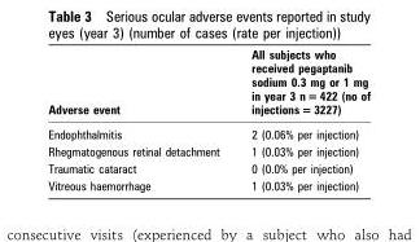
<table><thead><tr><td>Adverse event</td><td>All subjects who received pegaptanib sodium 0.3 mg or 1 mg in year 3 n = 422 (no of injections = 3227)</td></tr></thead><tbody><tr><td>Endophthalmitis</td><td>2 (0.06% per injection)</td></tr><tr><td>Rhegmatogenous retinal detachment</td><td>1 (0.03% per injection)</td></tr><tr><td>Traumatic cataract</td><td>0 (0.0% per injection)</td></tr><tr><td>Vitreous haemorrhage</td><td>1 (0.03% per injection)</td></tr></tbody></table>